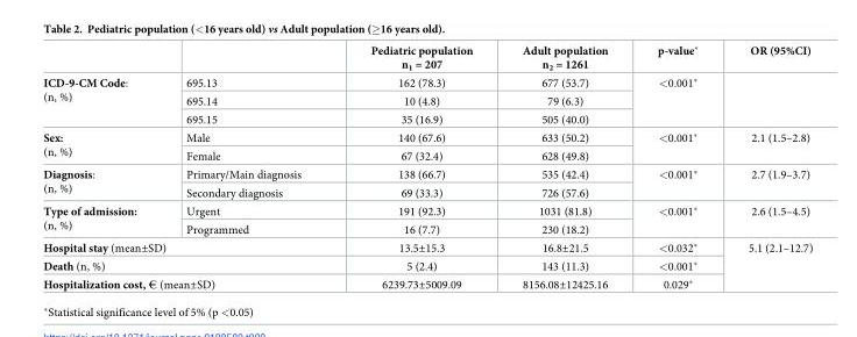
<table><thead><tr><td></td><td></td><td>Pediatric population n<sub>1</sub> = 207</td><td>Adult population n<sub>2</sub> = 1261</td><td>p-value*</td><td>OR (95%CI)</td></tr></thead><tbody><tr><td rowspan="3">ICD-9-CM Code: (n, %)</td><td>695.13</td><td>162 (78.3)</td><td>677 (53.7)</td><td rowspan="3">&lt;0.001*</td><td rowspan="3"></td></tr><tr><td>695.14</td><td>10 (4.8)</td><td>79 (6.3)</td></tr><tr><td>695.15</td><td>35 (16.9)</td><td>505 (40.0)</td></tr><tr><td rowspan="2">Sex: (n, %)</td><td>Male</td><td>140 (67.6)</td><td>633 (50.2)</td><td rowspan="2">&lt;0.001*</td><td rowspan="2">2.1 (1.5–2.8)</td></tr><tr><td>Female</td><td>67 (32.4)</td><td>628 (49.8)</td></tr><tr><td rowspan="2">Diagnosis: (n, %)</td><td>Primary/Main diagnosis</td><td>138 (66.7)</td><td>535 (42.4)</td><td rowspan="2">&lt;0.001*</td><td rowspan="2">2.7 (1.9–3.7)</td></tr><tr><td>Secondary diagnosis</td><td>69 (33.3)</td><td>726 (57.6)</td></tr><tr><td rowspan="2">Type of admission: (n, %)</td><td>Urgent</td><td>191 (92.3)</td><td>1031 (81.8)</td><td rowspan="2">&lt;0.001*</td><td rowspan="2">2.6 (1.5–4.5)</td></tr><tr><td>Programmed</td><td>16 (7.7)</td><td>230 (18.2)</td></tr><tr><td colspan="2">Hospital stay (mean±SD)</td><td>13.5±15.3</td><td>16.8±21.5</td><td>&lt;0.032*</td><td rowspan="3">5.1 (2.1–12.7)</td></tr><tr><td colspan="2">Death (n, %)</td><td>5 (2.4)</td><td>143 (11.3)</td><td>&lt;0.001*</td></tr><tr><td colspan="2">Hospitalization cost, € (mean±SD)</td><td>6239.73±5009.09</td><td>8156.08±12425.16</td><td>0.029*</td></tr></tbody></table>